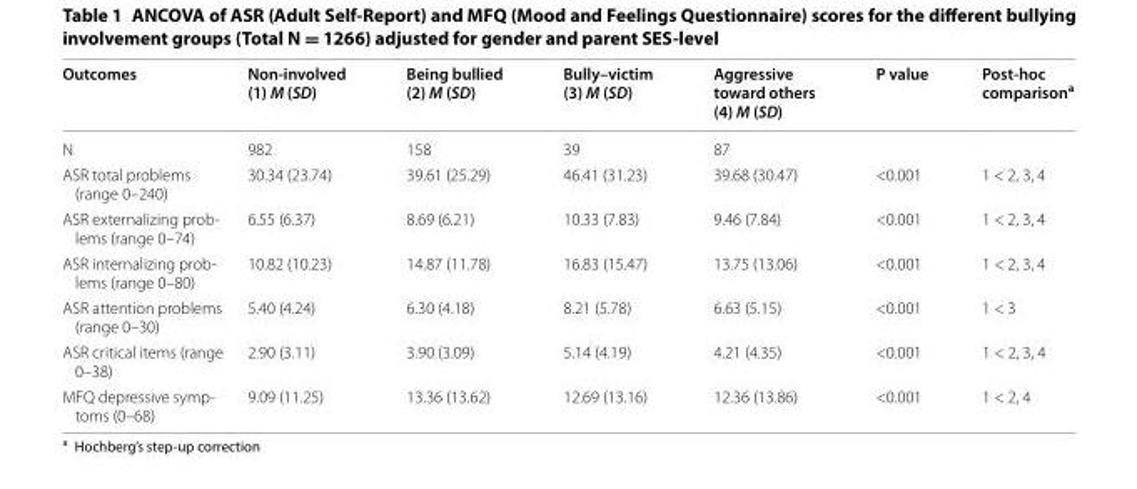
<table><thead><tr><td>Outcomes</td><td>Non-involved (1) M (SD)</td><td>Being bullied (2) M (SD)</td><td>Bully–victim (3) M (SD)</td><td>Aggressive toward others (4) M (SD)</td><td>P value</td><td>Post-hoc comparison<sup>a</sup></td></tr></thead><tbody><tr><td>N</td><td>982</td><td>158</td><td>39</td><td>87</td><td></td><td></td></tr><tr><td>ASR total problems (range 0–240)</td><td>30.34 (23.74)</td><td>39.61 (25.29)</td><td>46.41 (31.23)</td><td>39.68 (30.47)</td><td>&lt;0.001</td><td>1 &lt; 2, 3, 4</td></tr><tr><td>ASR externalizing prob- lems (range 0–74)</td><td>6.55 (6.37)</td><td>8.69 (6.21)</td><td>10.33 (7.83)</td><td>9.46 (7.84)</td><td>&lt;0.001</td><td>1 &lt; 2, 3, 4</td></tr><tr><td>ASR internalizing prob- lems (range 0–80)</td><td>10.82 (10.23)</td><td>14.87 (11.78)</td><td>16.83 (15.47)</td><td>13.75 (13.06)</td><td>&lt;0.001</td><td>1 &lt; 2, 3, 4</td></tr><tr><td>ASR attention problems (range 0–30)</td><td>5.40 (4.24)</td><td>6.30 (4.18)</td><td>8.21 (5.78)</td><td>6.63 (5.15)</td><td>&lt;0.001</td><td>1 &lt; 3</td></tr><tr><td>ASR critical items (range 0–38)</td><td>2.90 (3.11)</td><td>3.90 (3.09)</td><td>5.14 (4.19)</td><td>4.21 (4.35)</td><td>&lt;0.001</td><td>1 &lt; 2, 3, 4</td></tr><tr><td>MFQ depressive symp- toms (0–68)</td><td>9.09 (11.25)</td><td>13.36 (13.62)</td><td>12.69 (13.16)</td><td>12.36 (13.86)</td><td>&lt;0.001</td><td>1 &lt; 2, 4</td></tr></tbody></table>